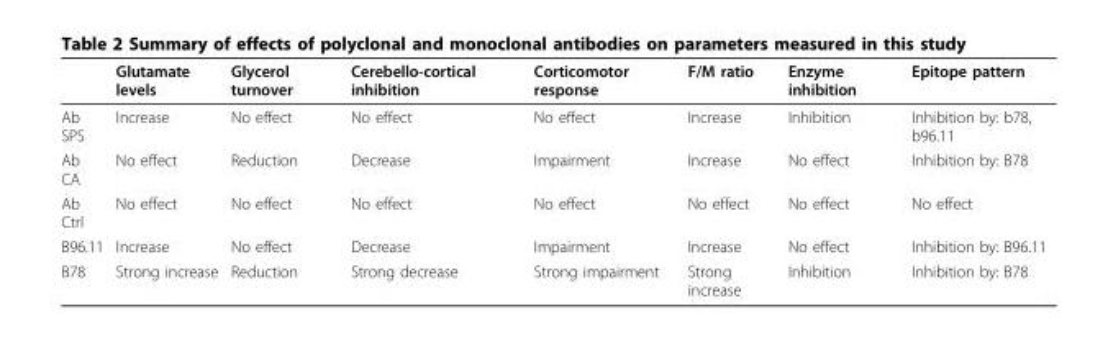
<table><thead><tr><td></td><td>Glutamate levels</td><td>Glycerol turnover</td><td>Cerebello-cortical inhibition</td><td>Corticomotor response</td><td>F/M ratio</td><td>Enzyme inhibition</td><td>Epitope pattern</td></tr></thead><tbody><tr><td>Ab SPS</td><td>Increase</td><td>No effect</td><td>No effect</td><td>No effect</td><td>Increase</td><td>Inhibition</td><td>Inhibition by: b78, b96.11</td></tr><tr><td>Ab CA</td><td>No effect</td><td>Reduction</td><td>Decrease</td><td>Impairment</td><td>Increase</td><td>No effect</td><td>Inhibition by: B78</td></tr><tr><td>Ab Ctrl</td><td>No effect</td><td>No effect</td><td>No effect</td><td>No effect</td><td>No effect</td><td>No effect</td><td>No effect</td></tr><tr><td>B96.11</td><td>Increase</td><td>No effect</td><td>Decrease</td><td>Impairment</td><td>Increase</td><td>No effect</td><td>Inhibition by: B96.11</td></tr><tr><td>B78</td><td>Strong increase</td><td>Reduction</td><td>Strong decrease</td><td>Strong impairment</td><td>Strong increase</td><td>Inhibition</td><td>Inhibition by: B78</td></tr></tbody></table>